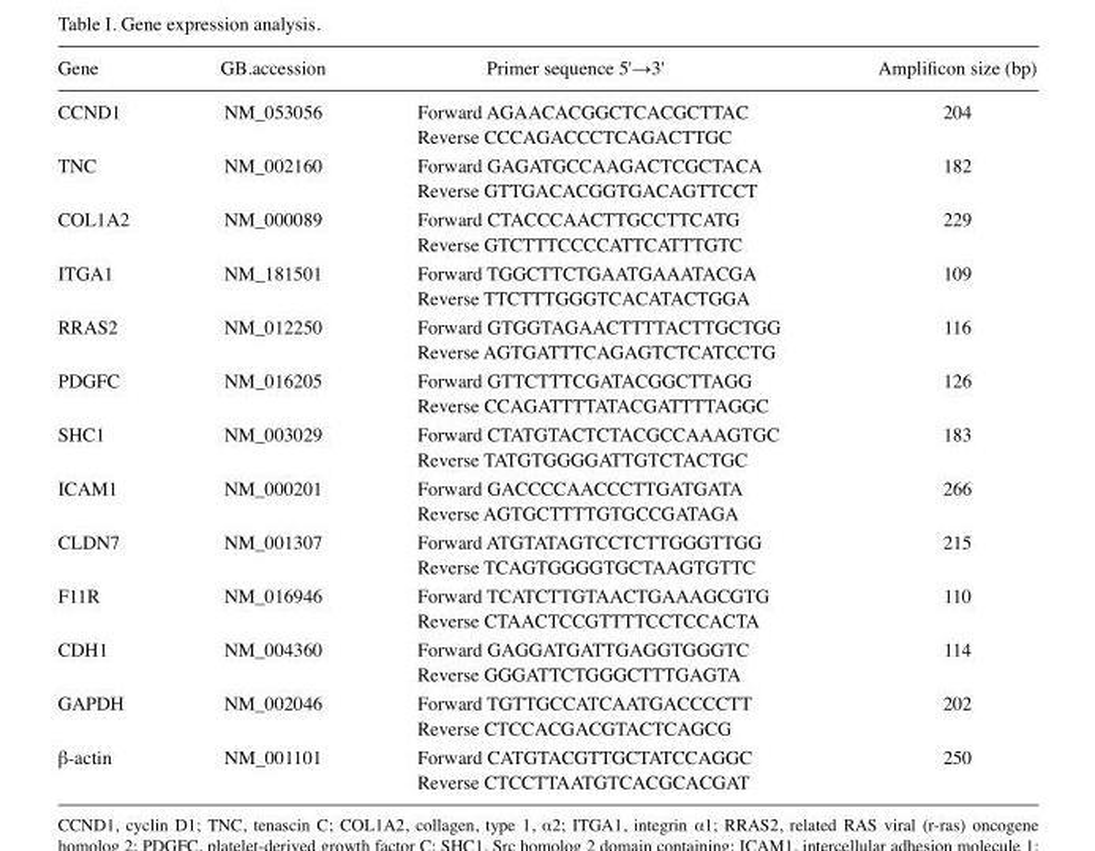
<table><thead><tr><td>Gene</td><td>GB.accession</td><td>Primer sequence 5&#x27;→3&#x27;</td><td>Amplificon size (bp)</td></tr></thead><tbody><tr><td rowspan="2">CCND1</td><td>NM_053056</td><td>Forward AGAACACGGCTCACGCTTAC</td><td>204</td></tr><tr><td></td><td>Reverse CCCAGACCCTCAGACTTGC</td><td></td></tr><tr><td rowspan="2">TNC</td><td>NM_002160</td><td>Forward GAGATGCCAAGACTCGCTACA</td><td>182</td></tr><tr><td></td><td>Reverse GTTGACACGGTGACAGTTCCT</td><td></td></tr><tr><td rowspan="2">COL1A2</td><td>NM_000089</td><td>Forward CTACCCAACTTGCCTTCATG</td><td>229</td></tr><tr><td></td><td>Reverse GTCTTTCCCCATTCATTTGTC</td><td></td></tr><tr><td rowspan="2">ITGA1</td><td>NM_181501</td><td>Forward TGGCTTCTGAATGAAATACGA</td><td>109</td></tr><tr><td></td><td>Reverse TTCTTTGGGTCACATACTGGA</td><td></td></tr><tr><td rowspan="2">RRAS2</td><td>NM_012250</td><td>Forward GTGGTAGAACTTTTACTTGCTGG</td><td>116</td></tr><tr><td></td><td>Reverse AGTGATTTCAGAGTCTCATCCTG</td><td></td></tr><tr><td rowspan="2">PDGFC</td><td>NM_016205</td><td>Forward GTTCTTTCGATACGGCTTAGG</td><td>126</td></tr><tr><td></td><td>Reverse CCAGATTTTATACGATTTTAGGC</td><td></td></tr><tr><td rowspan="2">SHC1</td><td>NM_003029</td><td>Forward CTATGTACTCTACGCCAAAGTGC</td><td>183</td></tr><tr><td></td><td>Reverse TATGTGGGGATTGTCTACTGC</td><td></td></tr><tr><td rowspan="2">ICAM1</td><td>NM_000201</td><td>Forward GACCCCAACCCTTGATGATA</td><td>266</td></tr><tr><td></td><td>Reverse AGTGCTTTTGTGCCGATAGA</td><td></td></tr><tr><td rowspan="2">CLDN7</td><td>NM_001307</td><td>Forward ATGTATAGTCCTCTTGGGTTGG</td><td>215</td></tr><tr><td></td><td>Reverse TCAGTGGGGTGCTAAGTGTTC</td><td></td></tr><tr><td rowspan="2">F11R</td><td>NM_016946</td><td>Forward TCATCTTGTAACTGAAAGCGTG</td><td>110</td></tr><tr><td></td><td>Reverse CTAACTCCGTTTTCCTCCACTA</td><td></td></tr><tr><td rowspan="2">CDH1</td><td>NM_004360</td><td>Forward GAGGATGATTGAGGTGGGTC</td><td>114</td></tr><tr><td></td><td>Reverse GGGATTCTGGGCTTTGAGTA</td><td></td></tr><tr><td rowspan="2">GAPDH</td><td>NM_002046</td><td>Forward TGTTGCCATCAATGACCCCTT</td><td>202</td></tr><tr><td></td><td>Reverse CTCCACGACGTACTCAGCG</td><td></td></tr><tr><td rowspan="2">β-actin</td><td>NM_001101</td><td>Forward CATGTACGTTGCTATCCAGGC</td><td>250</td></tr><tr><td></td><td>Reverse CTCCTTAATGTCACGCACGAT</td><td></td></tr></tbody></table>